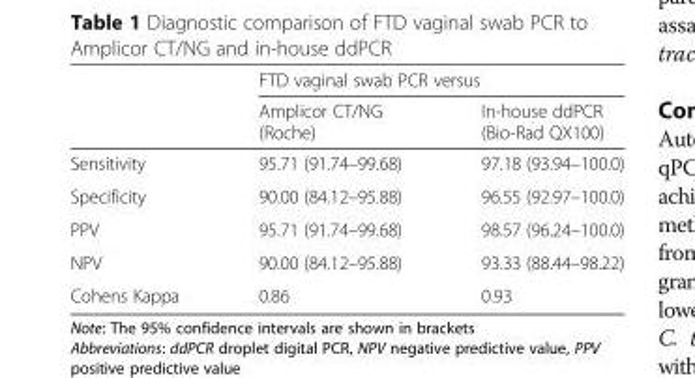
<table><thead><tr><td rowspan="2"></td><td colspan="2">FTD vaginal swab PCR versus</td></tr><tr><td>Amplicor CT/NG (Roche)</td><td>In-house ddPCR (Bio-Rad QX100)</td></tr></thead><tbody><tr><td>Sensitivity</td><td>95.71 (91.74–99.68)</td><td>97.18 (93.94–100.0)</td></tr><tr><td>Specificity</td><td>90.00 (84.12–95.88)</td><td>96.55 (92.97–100.0)</td></tr><tr><td>PPV</td><td>95.71 (91.74–99.68)</td><td>98.57 (96.24–100.0)</td></tr><tr><td>NPV</td><td>90.00 (84.12–95.88)</td><td>93.33 (88.44–98.22)</td></tr><tr><td>Cohens Kappa</td><td>0.86</td><td>0.93</td></tr></tbody></table>